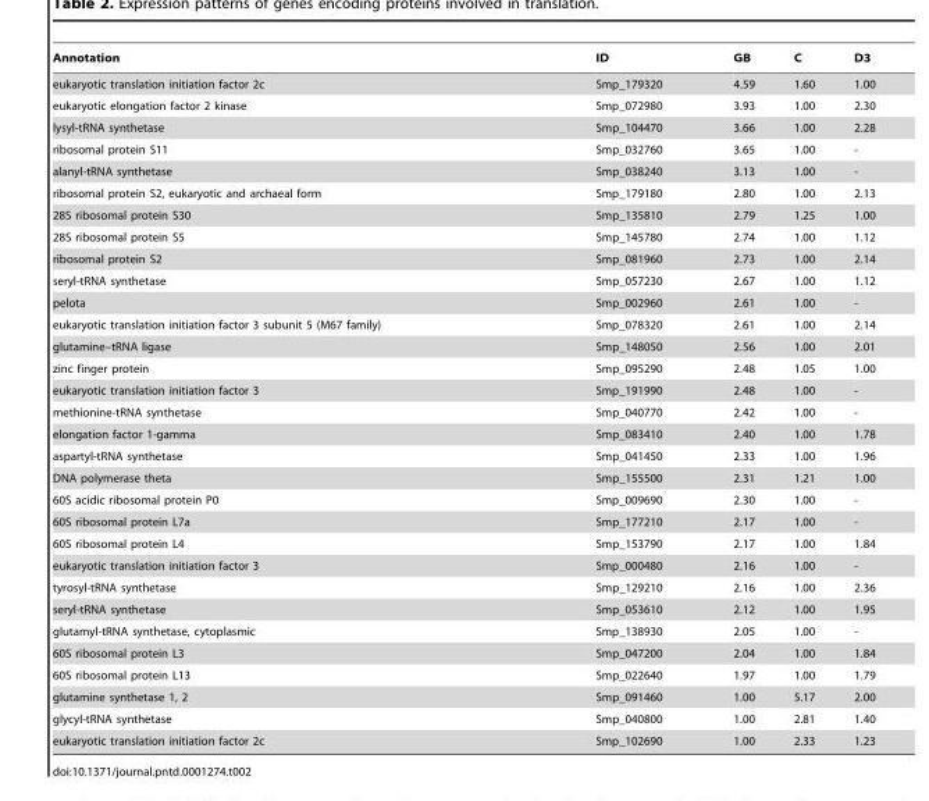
<table><thead><tr><td>Annotation</td><td>ID</td><td>GB</td><td>C</td><td>D3</td></tr></thead><tbody><tr><td>eukaryotic translation initiation factor 2c</td><td>Smp_179320</td><td>4.59</td><td>1.60</td><td>1.00</td></tr><tr><td>eukaryotic elongation factor 2 kinase</td><td>Smp_072980</td><td>3.93</td><td>1.00</td><td>2.30</td></tr><tr><td>lysyl-tRNA synthetase</td><td>Smp_104470</td><td>3.66</td><td>1.00</td><td>2.28</td></tr><tr><td>ribosomal protein S11</td><td>Smp_032760</td><td>3.65</td><td>1.00</td><td>-</td></tr><tr><td>alanyl-tRNA synthetase</td><td>Smp_038240</td><td>3.13</td><td>1.00</td><td>-</td></tr><tr><td>ribosomal protein S2, eukaryotic and archaeal form</td><td>Smp_179180</td><td>2.80</td><td>1.00</td><td>2.13</td></tr><tr><td>28S ribosomal protein S30</td><td>Smp_135810</td><td>2.79</td><td>1.25</td><td>1.00</td></tr><tr><td>28S ribosomal protein S5</td><td>Smp_145780</td><td>2.74</td><td>1.00</td><td>1.12</td></tr><tr><td>ribosomal protein S2</td><td>Smp_081960</td><td>2.73</td><td>1.00</td><td>2.14</td></tr><tr><td>seryl-tRNA synthetase</td><td>Smp_057230</td><td>2.67</td><td>1.00</td><td>1.12</td></tr><tr><td>pelota</td><td>Smp_002960</td><td>2.61</td><td>1.00</td><td>-</td></tr><tr><td>eukaryotic translation initiation factor 3 subunit 5 (M67 family)</td><td>Smp_078320</td><td>2.61</td><td>1.00</td><td>2.14</td></tr><tr><td>glutamine–tRNA ligase</td><td>Smp_148050</td><td>2.56</td><td>1.00</td><td>2.01</td></tr><tr><td>zinc finger protein</td><td>Smp_095290</td><td>2.48</td><td>1.05</td><td>1.00</td></tr><tr><td>eukaryotic translation initiation factor 3</td><td>Smp_191990</td><td>2.48</td><td>1.00</td><td>-</td></tr><tr><td>methionine-tRNA synthetase</td><td>Smp_040770</td><td>2.42</td><td>1.00</td><td>-</td></tr><tr><td>elongation factor 1-gamma</td><td>Smp_083410</td><td>2.40</td><td>1.00</td><td>1.78</td></tr><tr><td>aspartyl-tRNA synthetase</td><td>Smp_041450</td><td>2.33</td><td>1.00</td><td>1.96</td></tr><tr><td>DNA polymerase theta</td><td>Smp_155500</td><td>2.31</td><td>1.21</td><td>1.00</td></tr><tr><td>60S acidic ribosomal protein P0</td><td>Smp_009690</td><td>2.30</td><td>1.00</td><td>-</td></tr><tr><td>60S ribosomal protein L7a</td><td>Smp_177210</td><td>2.17</td><td>1.00</td><td>-</td></tr><tr><td>60S ribosomal protein L4</td><td>Smp_153790</td><td>2.17</td><td>1.00</td><td>1.84</td></tr><tr><td>eukaryotic translation initiation factor 3</td><td>Smp_000480</td><td>2.16</td><td>1.00</td><td>-</td></tr><tr><td>tyrosyl-tRNA synthetase</td><td>Smp_129210</td><td>2.16</td><td>1.00</td><td>2.36</td></tr><tr><td>seryl-tRNA synthetase</td><td>Smp_053610</td><td>2.12</td><td>1.00</td><td>1.95</td></tr><tr><td>glutamyl-tRNA synthetase, cytoplasmic</td><td>Smp_138930</td><td>2.05</td><td>1.00</td><td>-</td></tr><tr><td>60S ribosomal protein L3</td><td>Smp_047200</td><td>2.04</td><td>1.00</td><td>1.84</td></tr><tr><td>60S ribosomal protein L13</td><td>Smp_022640</td><td>1.97</td><td>1.00</td><td>1.79</td></tr><tr><td>glutamine synthetase 1, 2</td><td>Smp_091460</td><td>1.00</td><td>5.17</td><td>2.00</td></tr><tr><td>glycyl-tRNA synthetase</td><td>Smp_040800</td><td>1.00</td><td>2.81</td><td>1.40</td></tr><tr><td>eukaryotic translation initiation factor 2c</td><td>Smp_102690</td><td>1.00</td><td>2.33</td><td>1.23</td></tr></tbody></table>